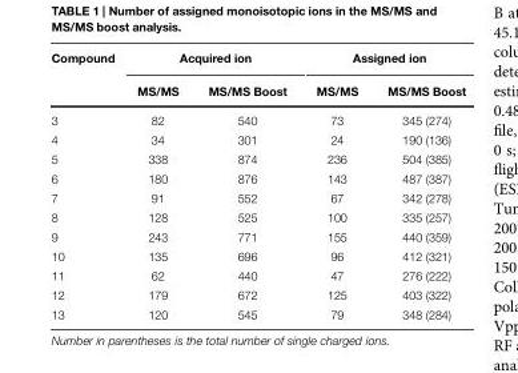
<table><thead><tr><td rowspan="2">Compound</td><td colspan="2">Acquired ion</td><td colspan="2">Assigned ion</td></tr><tr><td>MS/MS</td><td>MS/MS Boost</td><td>MS/MS</td><td>MS/MS Boost</td></tr></thead><tbody><tr><td>3</td><td>82</td><td>540</td><td>73</td><td>345 (274)</td></tr><tr><td>4</td><td>34</td><td>301</td><td>24</td><td>190 (136)</td></tr><tr><td>5</td><td>338</td><td>874</td><td>236</td><td>504 (385)</td></tr><tr><td>6</td><td>180</td><td>876</td><td>143</td><td>487 (387)</td></tr><tr><td>7</td><td>91</td><td>552</td><td>67</td><td>342 (278)</td></tr><tr><td>8</td><td>128</td><td>525</td><td>100</td><td>335 (257)</td></tr><tr><td>9</td><td>243</td><td>771</td><td>155</td><td>440 (359)</td></tr><tr><td>10</td><td>135</td><td>696</td><td>96</td><td>412 (321)</td></tr><tr><td>11</td><td>62</td><td>440</td><td>47</td><td>276 (222)</td></tr><tr><td>12</td><td>179</td><td>672</td><td>125</td><td>403 (322)</td></tr><tr><td>13</td><td>120</td><td>545</td><td>79</td><td>348 (284)</td></tr></tbody></table>